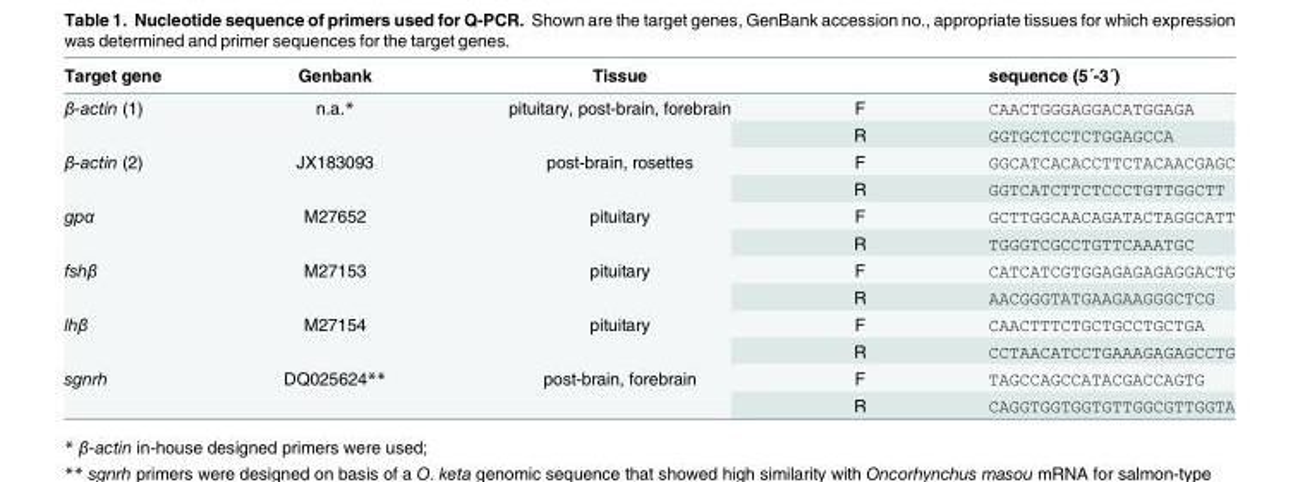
<table><thead><tr><td>Target gene</td><td>Genbank</td><td>Tissue</td><td></td><td>sequence (5´-3´)</td></tr></thead><tbody><tr><td rowspan="2">β-actin (1)</td><td rowspan="2">n.a.*</td><td rowspan="2">pituitary, post-brain, forebrain</td><td>F</td><td>CAACTGGGAGGACATGGAGA</td></tr><tr><td>R</td><td>GGTGCTCCTCTGGAGCCA</td></tr><tr><td rowspan="2">β-actin (2)</td><td rowspan="2">JX183093</td><td rowspan="2">post-brain, rosettes</td><td>F</td><td>GGCATCACACCTTCTACAACGAGC</td></tr><tr><td>R</td><td>GGTCATCTTCTCCCTGTTGGCTT</td></tr><tr><td rowspan="2">gpα</td><td rowspan="2">M27652</td><td rowspan="2">pituitary</td><td>F</td><td>GCTTGGCAACAGATACTAGGCATT</td></tr><tr><td>R</td><td>TGGGTCGCCTGTTCAAATGC</td></tr><tr><td rowspan="2">fshβ</td><td rowspan="2">M27153</td><td rowspan="2">pituitary</td><td>F</td><td>CATCATCGTGGAGAGAGAGGACTG</td></tr><tr><td>R</td><td>AACGGGTATGAAGAAGGGCTCG</td></tr><tr><td rowspan="2">lhβ</td><td rowspan="2">M27154</td><td rowspan="2">pituitary</td><td>F</td><td>CAACTTTCTGCTGCCTGCTGA</td></tr><tr><td>R</td><td>CCTAACATCCTGAAAGAGAGCCTG</td></tr><tr><td rowspan="2">sgnrh</td><td rowspan="2">DQ025624**</td><td rowspan="2">post-brain, forebrain</td><td>F</td><td>TAGCCAGCCATACGACCAGTG</td></tr><tr><td>R</td><td>CAGGTGGTGGTGTTGGCGTTGGTA</td></tr></tbody></table>